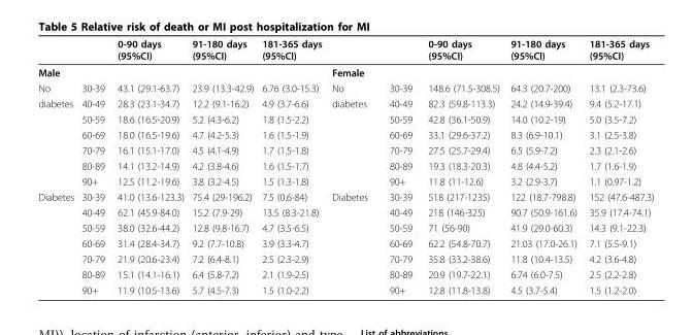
<table><thead><tr><td></td><td></td><td>0-90 days (95%CI)</td><td>91-180 days (95%CI)</td><td>181-365 days (95%CI)</td><td></td><td></td><td>0-90 days (95%CI)</td><td>91-180 days (95%CI)</td><td>181-365 days (95%CI)</td></tr></thead><tbody><tr><td>Male</td><td></td><td></td><td></td><td></td><td>Female</td><td></td><td></td><td></td><td></td></tr><tr><td rowspan="7">No diabetes</td><td>30-39</td><td>43.1 (29.1-63.7)</td><td>23.9 (13.3-42.9)</td><td>6.76 (3.0-15.3)</td><td>No</td><td>30-39</td><td>148.6 (71.5-308.5)</td><td>64.3 (20.7-200)</td><td>13.1 (2.3-73.6)</td></tr><tr><td>40-49</td><td>28.3 (23.1-34.7)</td><td>12.2 (9.1-16.2)</td><td>4.9 (3.7-6.6)</td><td>diabetes</td><td>40-49</td><td>82.3 (59.8-113.3)</td><td>24.2 (14.9-39.4)</td><td>9.4 (5.2-17.1)</td></tr><tr><td>50-59</td><td>18.6 (16.5-20.9)</td><td>5.2 (4.3-6.2)</td><td>1.8 (1.5-2.2)</td><td></td><td>50-59</td><td>42.8 (36.1-50.9)</td><td>14.0 (10.2-19)</td><td>5.0 (3.5-7.2)</td></tr><tr><td>60-69</td><td>18.0 (16.5-19.6)</td><td>4.7 (4.2-5.3)</td><td>1.6 (1.5-1.9)</td><td></td><td>60-69</td><td>33.1 (29.6-37.2)</td><td>8.3 (6.9-10.1)</td><td>3.1 (2.5-3.8)</td></tr><tr><td>70-79</td><td>16.1 (15.1-17.0)</td><td>4.5 (4.1-4.9)</td><td>1.7 (1.5-1.8)</td><td></td><td>70-79</td><td>27.5 (25.7-29.4)</td><td>6.5 (5.9-7.2)</td><td>2.3 (2.1-2.6)</td></tr><tr><td>80-89</td><td>14.1 (13.2-14.9)</td><td>4.2 (3.8-4.6)</td><td>1.6 (1.5-1.7)</td><td></td><td>80-89</td><td>19.3 (18.3-20.3)</td><td>4.8 (4.4-5.2)</td><td>1.7 (1.6-1.9)</td></tr><tr><td>90+</td><td>12.5 (11.2-19.6)</td><td>3.8 (3.2-4.5)</td><td>1.5 (1.3-1.8)</td><td></td><td>90+</td><td>11.8 (11-12.6)</td><td>3.2 (2.9-3.7)</td><td>1.1 (0.97-1.2)</td></tr><tr><td rowspan="7">Diabetes</td><td>30-39</td><td>41.0 (13.6-123.3)</td><td>75.4 (29-196.2)</td><td>7.5 (0.6-84)</td><td>Diabetes</td><td>30-39</td><td>518 (217-1235)</td><td>122 (18.7-798.8)</td><td>152 (47.6-487.3)</td></tr><tr><td>40-49</td><td>62.1 (45.9-84.0)</td><td>15.2 (7.9-29)</td><td>13.5 (8.3-21.8)</td><td></td><td>40-49</td><td>218 (146-325)</td><td>90.7 (50.9-161.6)</td><td>35.9 (17.4-74.1)</td></tr><tr><td>50-59</td><td>38.0 (32.6-44.2)</td><td>12.8 (9.8-16.7)</td><td>4.7 (3.5-6.5)</td><td></td><td>50-59</td><td>71 (56-90)</td><td>41.9 (29.0-60.3)</td><td>14.3 (9.1-22.3)</td></tr><tr><td>60-69</td><td>31.4 (28.4-34.7)</td><td>9.2 (7.7-10.8)</td><td>3.9 (3.3-4.7)</td><td></td><td>60-69</td><td>62.2 (54.8-70.7)</td><td>21.03 (17.0-26.1)</td><td>7.1 (5.5-9.1)</td></tr><tr><td>70-79</td><td>21.9 (20.6-23.4)</td><td>7.2 (6.4-8.1)</td><td>2.5 (2.3-2.9)</td><td></td><td>70-79</td><td>35.8 (33.2-38.6)</td><td>11.8 (10.4-13.5)</td><td>4.2 (3.6-4.8)</td></tr><tr><td>80-89</td><td>15.1 (14.1-16.1)</td><td>6.4 (5.8-7.2)</td><td>2.1 (1.9-2.5)</td><td></td><td>80-89</td><td>20.9 (19.7-22.1)</td><td>6.74 (6.0-7.5)</td><td>2.5 (2.2-2.8)</td></tr><tr><td>90+</td><td>11.9 (10.5-13.6)</td><td>5.7 (4.5-7.3)</td><td>1.5 (1.0-2.2)</td><td></td><td>90+</td><td>12.8 (11.8-13.8)</td><td>4.5 (3.7-5.4)</td><td>1.5 (1.2-2.0)</td></tr></tbody></table>